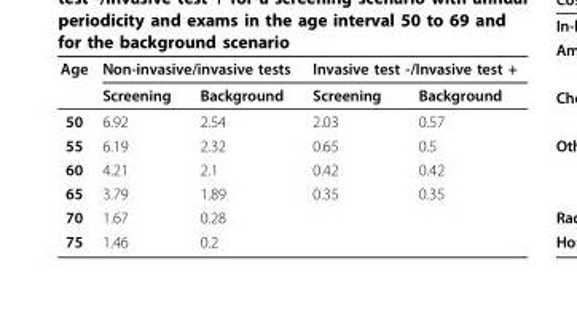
<table><thead><tr><td rowspan="2">Age</td><td colspan="2">Non-invasive/invasive tests</td><td colspan="2">Invasive test -/Invasive test +</td></tr><tr><td>Screening</td><td>Background</td><td>Screening</td><td>Background</td></tr></thead><tbody><tr><td>50</td><td>6.92</td><td>2.54</td><td>2.03</td><td>0.57</td></tr><tr><td>55</td><td>6.19</td><td>2.32</td><td>0.65</td><td>0.5</td></tr><tr><td>60</td><td>4.21</td><td>2.1</td><td>0.42</td><td>0.42</td></tr><tr><td>65</td><td>3.79</td><td>1.89</td><td>0.35</td><td>0.35</td></tr><tr><td>70</td><td>1.67</td><td>0.28</td><td></td><td></td></tr><tr><td>75</td><td>1.46</td><td>0.2</td><td></td><td></td></tr></tbody></table>